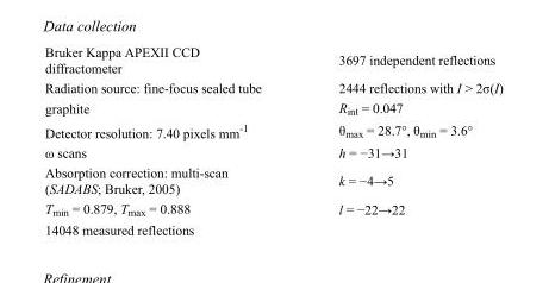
<table><tbody><tr><td>Bruker Kappa APEXII CCD diffractometer</td><td>3697 independent reflections</td></tr><tr><td>Radiation source: fine-focus sealed tube</td><td>2444 reflections with I &gt; 2σ(I)</td></tr><tr><td>graphite</td><td>R<sub>int</sub> = 0.047</td></tr><tr><td>Detector resolution: 7.40 pixels mm<sup>-1</sup></td><td>θ<sub>max</sub> = 28.7°, θ<sub>min</sub> = 3.6°</td></tr><tr><td>ω scans</td><td>h = −31→31</td></tr><tr><td>Absorption correction: multi-scan (SADABS; Bruker, 2005)</td><td>k = −4→5</td></tr><tr><td>T<sub>min</sub> = 0.879, T<sub>max</sub> = 0.888</td><td>l = −22→22</td></tr><tr><td>14048 measured reflections</td><td></td></tr></tbody></table>